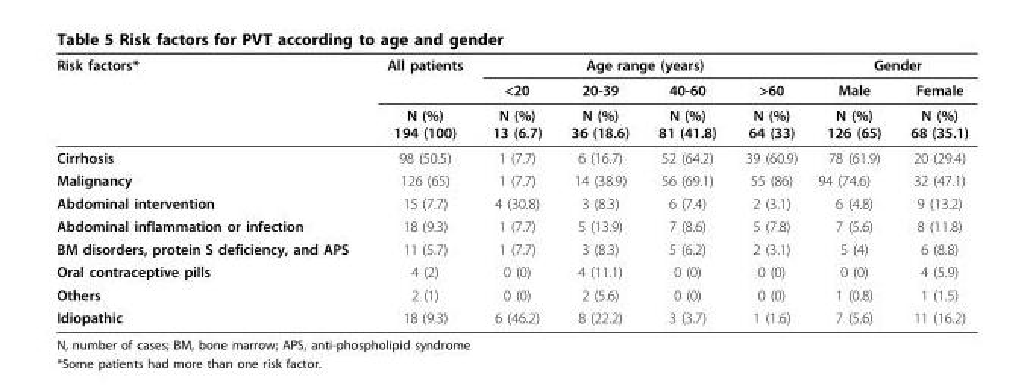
<table><thead><tr><td rowspan="3">Risk factors*</td><td rowspan="3">All patients N (%) 194 (100)</td><td colspan="4">Age range (years)</td><td colspan="2">Gender</td></tr><tr><td rowspan="2">&lt;20 N (%) 13 (6.7)</td><td rowspan="2">20-39 N (%) 36 (18.6)</td><td rowspan="2">40-60 N (%) 81 (41.8)</td><td rowspan="2">&gt;60 N (%) 64 (33)</td><td rowspan="2">Male N (%) 126 (65)</td><td rowspan="2">Female N (%) 68 (35.1)</td></tr><tr></tr></thead><tbody><tr><td>Cirrhosis</td><td>98 (50.5)</td><td>1 (7.7)</td><td>6 (16.7)</td><td>52 (64.2)</td><td>39 (60.9)</td><td>78 (61.9)</td><td>20 (29.4)</td></tr><tr><td>Malignancy</td><td>126 (65)</td><td>1 (7.7)</td><td>14 (38.9)</td><td>56 (69.1)</td><td>55 (86)</td><td>94 (74.6)</td><td>32 (47.1)</td></tr><tr><td>Abdominal intervention</td><td>15 (7.7)</td><td>4 (30.8)</td><td>3 (8.3)</td><td>6 (7.4)</td><td>2 (3.1)</td><td>6 (4.8)</td><td>9 (13.2)</td></tr><tr><td>Abdominal inflammation or infection</td><td>18 (9.3)</td><td>1 (7.7)</td><td>5 (13.9)</td><td>7 (8.6)</td><td>5 (7.8)</td><td>7 (5.6)</td><td>8 (11.8)</td></tr><tr><td>BM disorders, protein S deficiency, and APS</td><td>11 (5.7)</td><td>1 (7.7)</td><td>3 (8.3)</td><td>5 (6.2)</td><td>2 (3.1)</td><td>5 (4)</td><td>6 (8.8)</td></tr><tr><td>Oral contraceptive pills</td><td>4 (2)</td><td>0 (0)</td><td>4 (11.1)</td><td>0 (0)</td><td>0 (0)</td><td>0 (0)</td><td>4 (5.9)</td></tr><tr><td>Others</td><td>2 (1)</td><td>0 (0)</td><td>2 (5.6)</td><td>0 (0)</td><td>0 (0)</td><td>1 (0.8)</td><td>1 (1.5)</td></tr><tr><td>Idiopathic</td><td>18 (9.3)</td><td>6 (46.2)</td><td>8 (22.2)</td><td>3 (3.7)</td><td>1 (1.6)</td><td>7 (5.6)</td><td>11 (16.2)</td></tr></tbody></table>